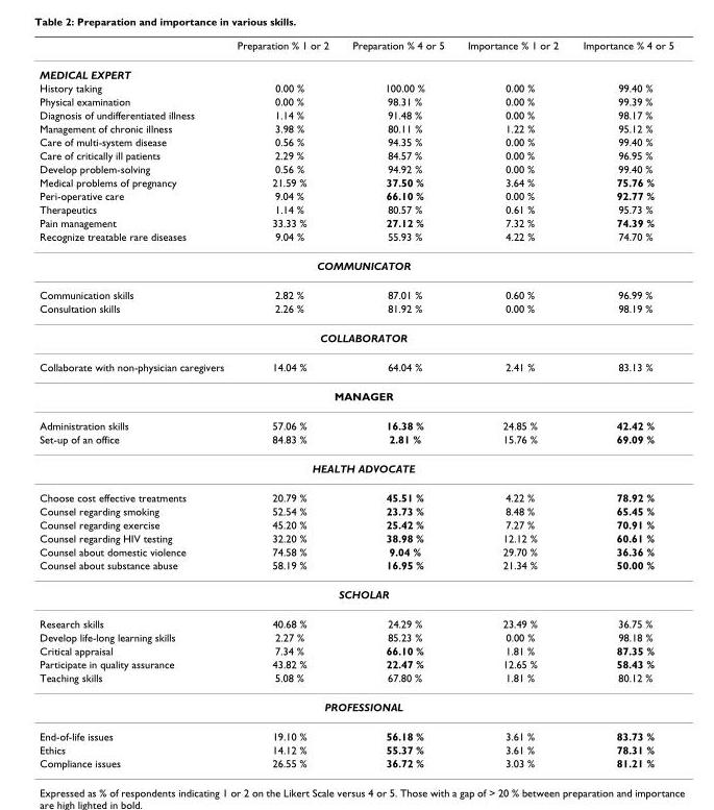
<table><thead><tr><td></td><td>Preparation % 1 or 2</td><td>Preparation % 4 or 5</td><td>Importance % 1 or 2</td><td>Importance % 4 or 5</td></tr></thead><tbody><tr><td colspan="5">MEDICAL EXPERT</td></tr><tr><td>History taking</td><td>0.00 %</td><td>100.00 %</td><td>0.00 %</td><td>99.40 %</td></tr><tr><td>Physical examination</td><td>0.00 %</td><td>98.31 %</td><td>0.00 %</td><td>99.39 %</td></tr><tr><td>Diagnosis of undifferentiated illness</td><td>1.14 %</td><td>91.48 %</td><td>0.00 %</td><td>98.17 %</td></tr><tr><td>Management of chronic illness</td><td>3.98 %</td><td>80.11 %</td><td>1.22 %</td><td>95.12 %</td></tr><tr><td>Care of multi-system disease</td><td>0.56 %</td><td>94.35 %</td><td>0.00 %</td><td>99.40 %</td></tr><tr><td>Care of critically ill patients</td><td>2.29 %</td><td>84.57 %</td><td>0.00 %</td><td>96.95 %</td></tr><tr><td>Develop problem-solving</td><td>0.56 %</td><td>94.92 %</td><td>0.00 %</td><td>99.40 %</td></tr><tr><td>Medical problems of pregnancy</td><td>21.59 %</td><td>37.50 %</td><td>3.64 %</td><td>75.76 %</td></tr><tr><td>Peri-operative care</td><td>9.04 %</td><td>66.10 %</td><td>0.00 %</td><td>92.77 %</td></tr><tr><td>Therapeutics</td><td>1.14 %</td><td>80.57 %</td><td>0.61 %</td><td>95.73 %</td></tr><tr><td>Pain management</td><td>33.33 %</td><td>27.12 %</td><td>7.32 %</td><td>74.39 %</td></tr><tr><td>Recognize treatable rare diseases</td><td>9.04 %</td><td>55.93 %</td><td>4.22 %</td><td>74.70 %</td></tr><tr><td colspan="5">COMMUNICATOR</td></tr><tr><td>Communication skills</td><td>2.82 %</td><td>87.01 %</td><td>0.60 %</td><td>96.99 %</td></tr><tr><td>Consultation skills</td><td>2.26 %</td><td>81.92 %</td><td>0.00 %</td><td>98.19 %</td></tr><tr><td colspan="5">COLLABORATOR</td></tr><tr><td>Collaborate with non-physician caregivers</td><td>14.04 %</td><td>64.04 %</td><td>2.41 %</td><td>83.13 %</td></tr><tr><td colspan="5">MANAGER</td></tr><tr><td>Administration skills</td><td>57.06 %</td><td>16.38 %</td><td>24.85 %</td><td>42.42 %</td></tr><tr><td>Set-up of an office</td><td>84.83 %</td><td>2.81 %</td><td>15.76 %</td><td>69.09 %</td></tr><tr><td colspan="5">HEALTH ADVOCATE</td></tr><tr><td>Choose cost effective treatments</td><td>20.79 %</td><td>45.51 %</td><td>4.22 %</td><td>78.92 %</td></tr><tr><td>Counsel regarding smoking</td><td>52.54 %</td><td>23.73 %</td><td>8.48 %</td><td>65.45 %</td></tr><tr><td>Counsel regarding exercise</td><td>45.20 %</td><td>25.42 %</td><td>7.27 %</td><td>70.91 %</td></tr><tr><td>Counsel regarding HIV testing</td><td>32.20 %</td><td>38.98 %</td><td>12.12 %</td><td>60.61 %</td></tr><tr><td>Counsel about domestic violence</td><td>74.58 %</td><td>9.04 %</td><td>29.70 %</td><td>36.36 %</td></tr><tr><td>Counsel about substance abuse</td><td>58.19 %</td><td>16.95 %</td><td>21.34 %</td><td>50.00 %</td></tr><tr><td colspan="5">SCHOLAR</td></tr><tr><td>Research skills</td><td>40.68 %</td><td>24.29 %</td><td>23.49 %</td><td>36.75 %</td></tr><tr><td>Develop life-long learning skills</td><td>2.27 %</td><td>85.23 %</td><td>0.00 %</td><td>98.18 %</td></tr><tr><td>Critical appraisal</td><td>7.34 %</td><td>66.10 %</td><td>1.81 %</td><td>87.35 %</td></tr><tr><td>Participate in quality assurance</td><td>43.82 %</td><td>22.47 %</td><td>12.65 %</td><td>58.43 %</td></tr><tr><td>Teaching skills</td><td>5.08 %</td><td>67.80 %</td><td>1.81 %</td><td>80.12 %</td></tr><tr><td colspan="5">PROFESSIONAL</td></tr><tr><td>End-of-life issues</td><td>19.10 %</td><td>56.18 %</td><td>3.61 %</td><td>83.73 %</td></tr><tr><td>Ethics</td><td>14.12 %</td><td>55.37 %</td><td>3.61 %</td><td>78.31 %</td></tr><tr><td>Compliance issues</td><td>26.55 %</td><td>36.72 %</td><td>3.03 %</td><td>81.21 %</td></tr></tbody></table>